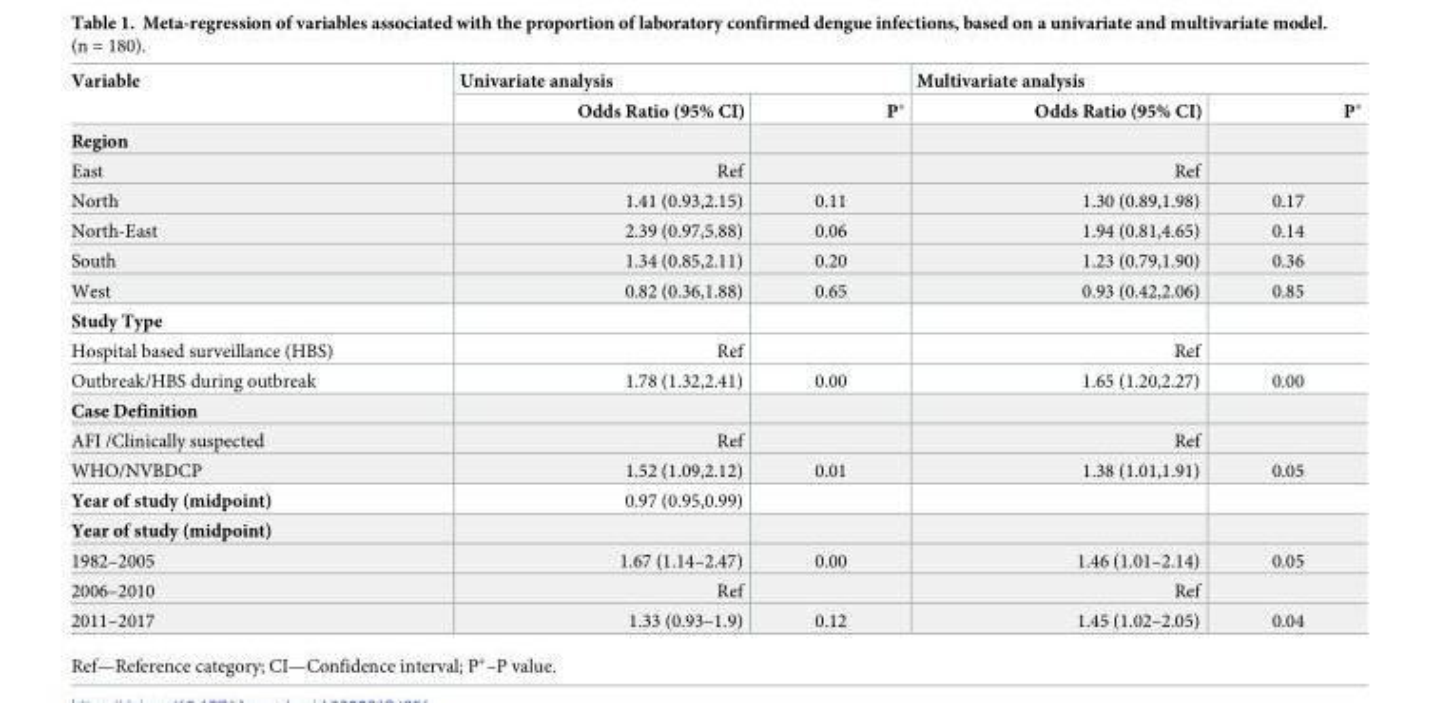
<table><thead><tr><td rowspan="2">Variable</td><td colspan="2">Univariate analysis</td><td colspan="2">Multivariate analysis</td></tr><tr><td>Odds Ratio (95% CI)</td><td>P*</td><td>Odds Ratio (95% CI)</td><td>P*</td></tr></thead><tbody><tr><td colspan="5">Region</td></tr><tr><td>East</td><td>Ref</td><td></td><td>Ref</td><td></td></tr><tr><td>North</td><td>1.41 (0.93,2.15)</td><td>0.11</td><td>1.30 (0.89,1.98)</td><td>0.17</td></tr><tr><td>North-East</td><td>2.39 (0.97,5.88)</td><td>0.06</td><td>1.94 (0.81,4.65)</td><td>0.14</td></tr><tr><td>South</td><td>1.34 (0.85,2.11)</td><td>0.20</td><td>1.23 (0.79,1.90)</td><td>0.36</td></tr><tr><td>West</td><td>0.82 (0.36,1.88)</td><td>0.65</td><td>0.93 (0.42,2.06)</td><td>0.85</td></tr><tr><td colspan="5">Study Type</td></tr><tr><td>Hospital based surveillance (HBS)</td><td>Ref</td><td></td><td>Ref</td><td></td></tr><tr><td>Outbreak/HBS during outbreak</td><td>1.78 (1.32,2.41)</td><td>0.00</td><td>1.65 (1.20,2.27)</td><td>0.00</td></tr><tr><td colspan="5">Case Definition</td></tr><tr><td>AFI /Clinically suspected</td><td>Ref</td><td></td><td>Ref</td><td></td></tr><tr><td>WHO/NVBDCP</td><td>1.52 (1.09,2.12)</td><td>0.01</td><td>1.38 (1.01,1.91)</td><td>0.05</td></tr><tr><td>Year of study (midpoint)</td><td>0.97 (0.95,0.99)</td><td></td><td></td><td></td></tr><tr><td colspan="5">Year of study (midpoint)</td></tr><tr><td>1982–2005</td><td>1.67 (1.14–2.47)</td><td>0.00</td><td>1.46 (1.01–2.14)</td><td>0.05</td></tr><tr><td>2006–2010</td><td>Ref</td><td></td><td>Ref</td><td></td></tr><tr><td>2011–2017</td><td>1.33 (0.93–1.9)</td><td>0.12</td><td>1.45 (1.02–2.05)</td><td>0.04</td></tr></tbody></table>